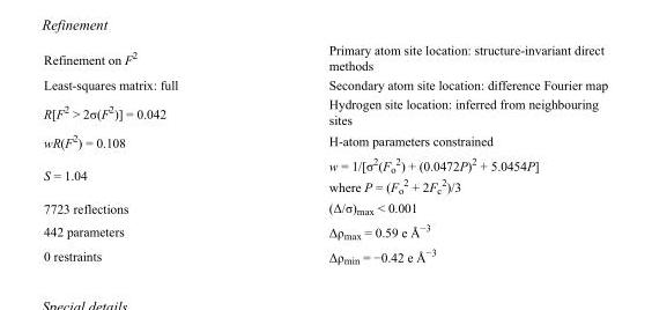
<table><tbody><tr><td>Refinement on F<sup>2</sup></td><td>Primary atom site location: structure-invariant direct methods</td></tr><tr><td>Least-squares matrix: full</td><td>Secondary atom site location: difference Fourier map</td></tr><tr><td>R[F<sup>2</sup> &gt; 2σ(F<sup>2</sup>)] = 0.042</td><td>Hydrogen site location: inferred from neighbouring sites</td></tr><tr><td>wR(F<sup>2</sup>) = 0.108</td><td>H-atom parameters constrained</td></tr><tr><td>S = 1.04</td><td>w = 1/[σ<sup>2</sup>(F<sub>o</sub> <sup>2</sup>) + (0.0472P)<sup>2</sup> + 5.0454P] where P = (F<sub>o</sub> <sup>2</sup> + 2F<sub>c</sub> <sup>2</sup>)/3</td></tr><tr><td>7723 reflections</td><td>(Δ/σ)<sub>max</sub> &lt; 0.001</td></tr><tr><td>442 parameters</td><td>Δρ<sub>max</sub> = 0.59 e Å<sup>−3</sup></td></tr><tr><td>0 restraints</td><td>Δρ<sub>min</sub> = −0.42 e Å<sup>−3</sup></td></tr></tbody></table>